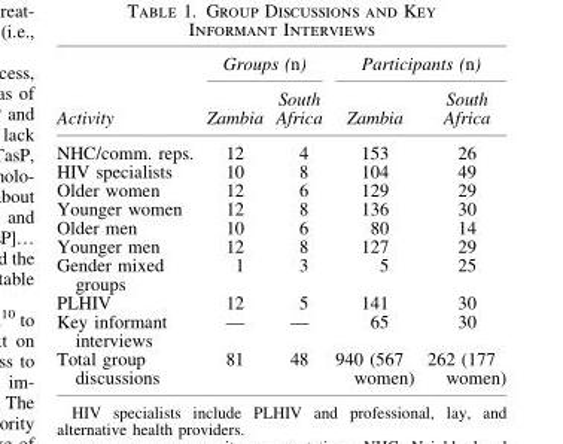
<table><thead><tr><td rowspan="2">Activity</td><td colspan="2">Groups (n)</td><td colspan="2">Participants (n)</td></tr><tr><td>Zambia</td><td>South Africa</td><td>Zambia</td><td>South Africa</td></tr></thead><tbody><tr><td>NHC/comm. reps.</td><td>12</td><td>4</td><td>153</td><td>26</td></tr><tr><td>HIV specialists</td><td>10</td><td>8</td><td>104</td><td>49</td></tr><tr><td>Older women</td><td>12</td><td>6</td><td>129</td><td>29</td></tr><tr><td>Younger women</td><td>12</td><td>8</td><td>136</td><td>30</td></tr><tr><td>Older men</td><td>10</td><td>6</td><td>80</td><td>14</td></tr><tr><td>Younger men</td><td>12</td><td>8</td><td>127</td><td>29</td></tr><tr><td>Gender mixed groups</td><td>1</td><td>3</td><td>5</td><td>25</td></tr><tr><td>PLHIV</td><td>12</td><td>5</td><td>141</td><td>30</td></tr><tr><td>Key informant interviews</td><td>—</td><td>—</td><td>65</td><td>30</td></tr><tr><td>Total group discussions</td><td>81</td><td>48</td><td>940 (567 women)</td><td>262 (177 women)</td></tr></tbody></table>